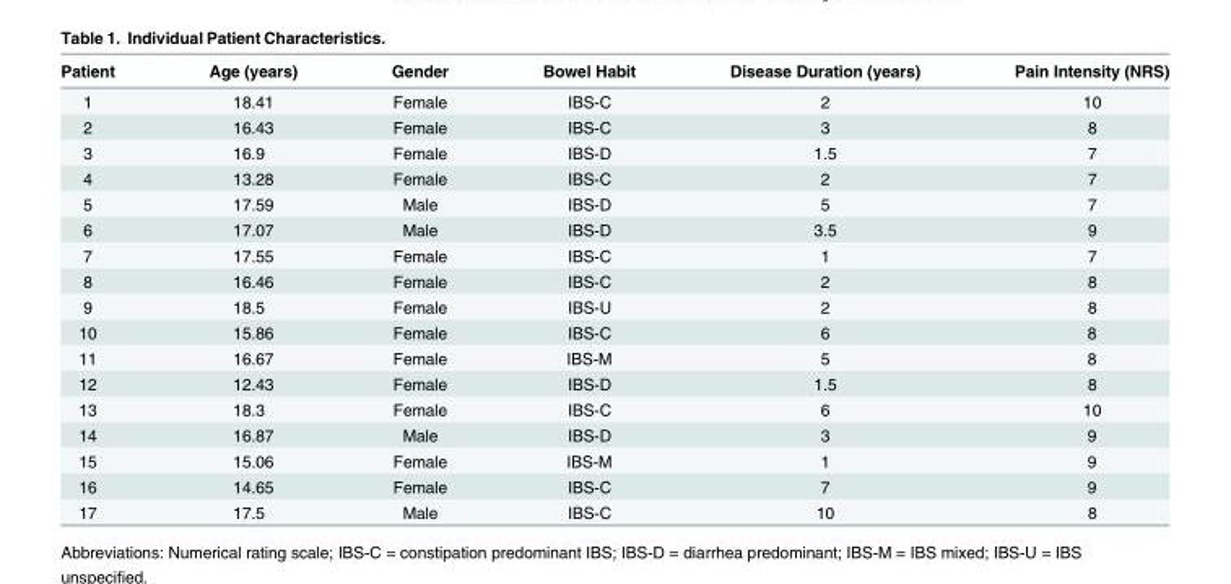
<table><thead><tr><td>Patient</td><td>Age (years)</td><td>Gender</td><td>Bowel Habit</td><td>Disease Duration (years)</td><td>Pain Intensity (NRS)</td></tr></thead><tbody><tr><td>1</td><td>18.41</td><td>Female</td><td>IBS-C</td><td>2</td><td>10</td></tr><tr><td>2</td><td>16.43</td><td>Female</td><td>IBS-C</td><td>3</td><td>8</td></tr><tr><td>3</td><td>16.9</td><td>Female</td><td>IBS-D</td><td>1.5</td><td>7</td></tr><tr><td>4</td><td>13.28</td><td>Female</td><td>IBS-C</td><td>2</td><td>7</td></tr><tr><td>5</td><td>17.59</td><td>Male</td><td>IBS-D</td><td>5</td><td>7</td></tr><tr><td>6</td><td>17.07</td><td>Male</td><td>IBS-D</td><td>3.5</td><td>9</td></tr><tr><td>7</td><td>17.55</td><td>Female</td><td>IBS-C</td><td>1</td><td>7</td></tr><tr><td>8</td><td>16.46</td><td>Female</td><td>IBS-C</td><td>2</td><td>8</td></tr><tr><td>9</td><td>18.5</td><td>Female</td><td>IBS-U</td><td>2</td><td>8</td></tr><tr><td>10</td><td>15.86</td><td>Female</td><td>IBS-C</td><td>6</td><td>8</td></tr><tr><td>11</td><td>16.67</td><td>Female</td><td>IBS-M</td><td>5</td><td>8</td></tr><tr><td>12</td><td>12.43</td><td>Female</td><td>IBS-D</td><td>1.5</td><td>8</td></tr><tr><td>13</td><td>18.3</td><td>Female</td><td>IBS-C</td><td>6</td><td>10</td></tr><tr><td>14</td><td>16.87</td><td>Male</td><td>IBS-D</td><td>3</td><td>9</td></tr><tr><td>15</td><td>15.06</td><td>Female</td><td>IBS-M</td><td>1</td><td>9</td></tr><tr><td>16</td><td>14.65</td><td>Female</td><td>IBS-C</td><td>7</td><td>9</td></tr><tr><td>17</td><td>17.5</td><td>Male</td><td>IBS-C</td><td>10</td><td>8</td></tr></tbody></table>